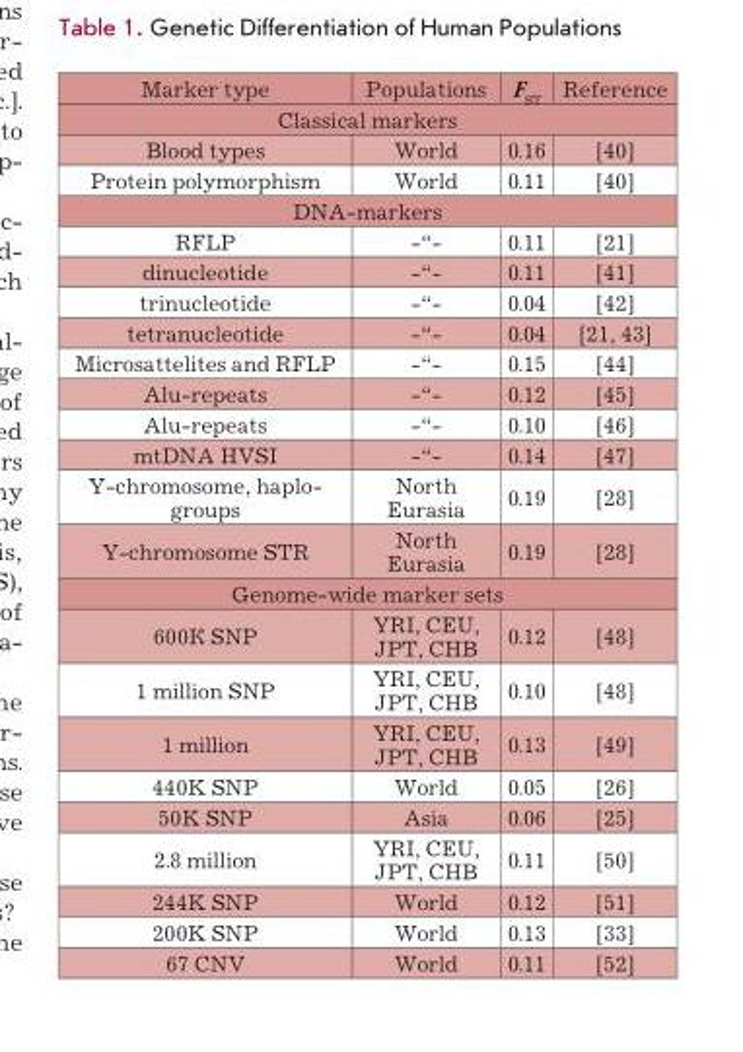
<table><thead><tr><td>Marker type</td><td>Populations</td><td>F<sub>ST</sub></td><td>Reference</td></tr></thead><tbody><tr><td colspan="4">Classical markers</td></tr><tr><td>Blood types</td><td>World</td><td>0.16</td><td>[40]</td></tr><tr><td>Protein polymorphism</td><td>World</td><td>0.11</td><td>[40]</td></tr><tr><td colspan="4">DNA-markers</td></tr><tr><td>RFLP</td><td>-“-</td><td>0.11</td><td>[21]</td></tr><tr><td>dinucleotide</td><td>-“-</td><td>0.11</td><td>[41]</td></tr><tr><td>trinucleotide</td><td>-“-</td><td>0.04</td><td>[42]</td></tr><tr><td>tetranucleotide</td><td>-“-</td><td>0.04</td><td>[21, 43]</td></tr><tr><td>Microsattelites and RFLP</td><td>-“-</td><td>0.15</td><td>[44]</td></tr><tr><td>Alu-repeats</td><td>-“-</td><td>0.12</td><td>[45]</td></tr><tr><td>Alu-repeats</td><td>-“-</td><td>0.10</td><td>[46]</td></tr><tr><td>mtDNA HVSI</td><td>-“-</td><td>0.14</td><td>[47]</td></tr><tr><td>Y-chromosome, haplo- groups</td><td>North Eurasia</td><td>0.19</td><td>[28]</td></tr><tr><td>Y-chromosome STR</td><td>North Eurasia</td><td>0.19</td><td>[28]</td></tr><tr><td colspan="4">Genome-wide marker sets</td></tr><tr><td>600К SNP</td><td>YRI, CEU, JPT, CHB</td><td>0.12</td><td>[48]</td></tr><tr><td>1 million SNP</td><td>YRI, CEU, JPT, CHB</td><td>0.10</td><td>[48]</td></tr><tr><td>1 million</td><td>YRI, CEU, JPT, CHB</td><td>0.13</td><td>[49]</td></tr><tr><td>440K SNP</td><td>World</td><td>0.05</td><td>[26]</td></tr><tr><td>50K SNP</td><td>Asia</td><td>0.06</td><td>[25]</td></tr><tr><td>2.8 million</td><td>YRI, CEU, JPT, CHB</td><td>0.11</td><td>[50]</td></tr><tr><td>244K SNP</td><td>World</td><td>0.12</td><td>[51]</td></tr><tr><td>200K SNP</td><td>World</td><td>0.13</td><td>[33]</td></tr><tr><td>67 CNV</td><td>World</td><td>0.11</td><td>[52]</td></tr></tbody></table>